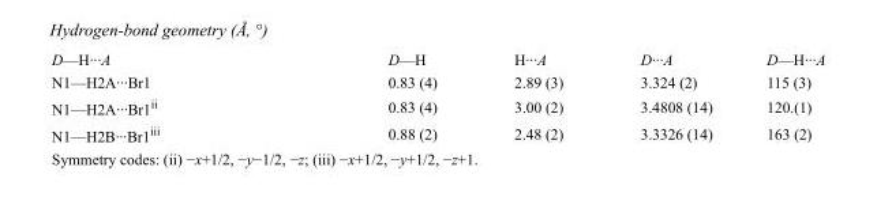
<table><tbody><tr><td>D—H···A</td><td>D—H</td><td>H···A</td><td>D···A</td><td>D—H···A</td></tr><tr><td>N1—H2A···Br1</td><td>0.83 (4)</td><td>2.89 (3)</td><td>3.324 (2)</td><td>115 (3)</td></tr><tr><td>N1—H2A···Br1<sup>ii</sup></td><td>0.83 (4)</td><td>3.00 (2)</td><td>3.4808 (14)</td><td>120.(1)</td></tr><tr><td>N1—H2B···Br1<sup>iii</sup></td><td>0.88 (2)</td><td>2.48 (2)</td><td>3.3326 (14)</td><td>163 (2)</td></tr></tbody></table>